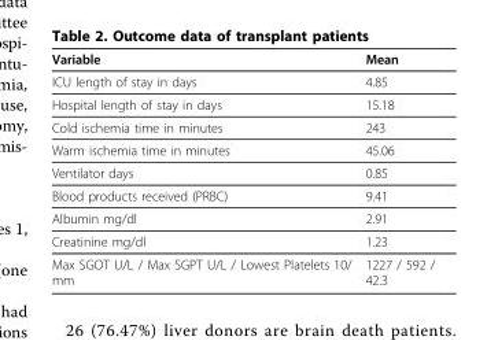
<table><thead><tr><td>Variable</td><td>Mean</td></tr></thead><tbody><tr><td>ICU length of stay in days</td><td>4.85</td></tr><tr><td>Hospital length of stay in days</td><td>15.18</td></tr><tr><td>Cold ischemia time in minutes</td><td>243</td></tr><tr><td>Warm ischemia time in minutes</td><td>45.06</td></tr><tr><td>Ventilator days</td><td>0.85</td></tr><tr><td>Blood products received (PRBC)</td><td>9.41</td></tr><tr><td>Albumin mg/dl</td><td>2.91</td></tr><tr><td>Creatinine mg/dl</td><td>1.23</td></tr><tr><td>Max SGOT U/L / Max SGPT U/L / Lowest Platelets 10/ mm</td><td>1227 / 592 / 42.3</td></tr></tbody></table>